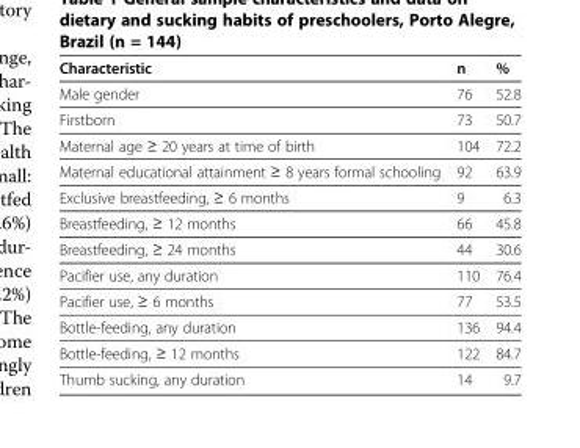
<table><thead><tr><td>Characteristic</td><td>n</td><td>%</td></tr></thead><tbody><tr><td>Male gender</td><td>76</td><td>52.8</td></tr><tr><td>Firstborn</td><td>73</td><td>50.7</td></tr><tr><td>Maternal age ≥ 20 years at time of birth</td><td>104</td><td>72.2</td></tr><tr><td>Maternal educational attainment ≥ 8 years formal schooling</td><td>92</td><td>63.9</td></tr><tr><td>Exclusive breastfeeding, ≥ 6 months</td><td>9</td><td>6.3</td></tr><tr><td>Breastfeeding, ≥ 12 months</td><td>66</td><td>45.8</td></tr><tr><td>Breastfeeding, ≥ 24 months</td><td>44</td><td>30.6</td></tr><tr><td>Pacifier use, any duration</td><td>110</td><td>76.4</td></tr><tr><td>Pacifier use, ≥ 6 months</td><td>77</td><td>53.5</td></tr><tr><td>Bottle-feeding, any duration</td><td>136</td><td>94.4</td></tr><tr><td>Bottle-feeding, ≥ 12 months</td><td>122</td><td>84.7</td></tr><tr><td>Thumb sucking, any duration</td><td>14</td><td>9.7</td></tr></tbody></table>